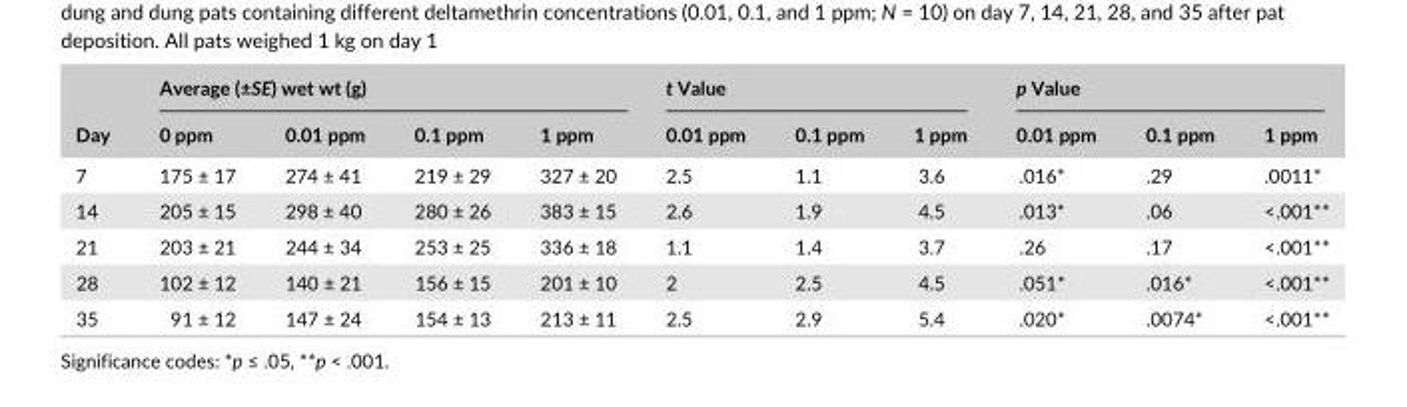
<table><thead><tr><td rowspan="2">Day</td><td colspan="4">Average (±SE) wet wt (g)</td><td colspan="3">t Value</td><td colspan="3">p Value</td></tr><tr><td>0 ppm</td><td>0.01 ppm</td><td>0.1 ppm</td><td>1 ppm</td><td>0.01 ppm</td><td>0.1 ppm</td><td>1 ppm</td><td>0.01 ppm</td><td>0.1 ppm</td><td>1 ppm</td></tr></thead><tbody><tr><td>7</td><td>175 ± 17</td><td>274 ± 41</td><td>219 ± 29</td><td>327 ± 20</td><td>2.5</td><td>1.1</td><td>3.6</td><td>.016*</td><td>.29</td><td>.0011*</td></tr><tr><td>14</td><td>205 ± 15</td><td>298 ± 40</td><td>280 ± 26</td><td>383 ± 15</td><td>2.6</td><td>1.9</td><td>4.5</td><td>.013*</td><td>.06</td><td>&lt;.001**</td></tr><tr><td>21</td><td>203 ± 21</td><td>244 ± 34</td><td>253 ± 25</td><td>336 ± 18</td><td>1.1</td><td>1.4</td><td>3.7</td><td>.26</td><td>.17</td><td>&lt;.001**</td></tr><tr><td>28</td><td>102 ± 12</td><td>140 ± 21</td><td>156 ± 15</td><td>201 ± 10</td><td>2</td><td>2.5</td><td>4.5</td><td>.051*</td><td>.016*</td><td>&lt;.001**</td></tr><tr><td>35</td><td>91 ± 12</td><td>147 ± 24</td><td>154 ± 13</td><td>213 ± 11</td><td>2.5</td><td>2.9</td><td>5.4</td><td>.020*</td><td>.0074*</td><td>&lt;.001**</td></tr></tbody></table>